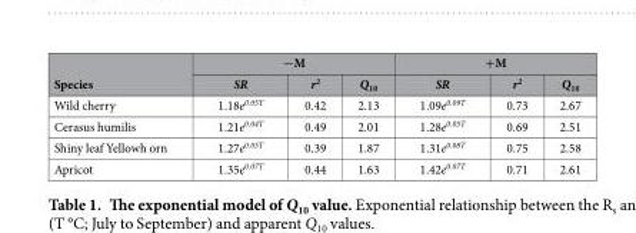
<table><thead><tr><td rowspan="2">Species</td><td colspan="3">−M</td><td colspan="3">+M</td></tr><tr><td>SR</td><td>r<sup>2</sup></td><td>Q<sub>10</sub></td><td>SR</td><td>r<sup>2</sup></td><td>Q<sub>10</sub></td></tr></thead><tbody><tr><td>Wild cherry</td><td>1.18e<sup>0.05T</sup></td><td>0.42</td><td>2.13</td><td>1.09e<sup>0.09T</sup></td><td>0.73</td><td>2.67</td></tr><tr><td>Cerasus humilis</td><td>1.21e<sup>0.04T</sup></td><td>0.49</td><td>2.01</td><td>1.28e<sup>0.05T</sup></td><td>0.69</td><td>2.51</td></tr><tr><td>Shiny leaf Yellowh orn</td><td>1.27e<sup>0.05T</sup></td><td>0.39</td><td>1.87</td><td>1.31e<sup>0.08T</sup></td><td>0.75</td><td>2.58</td></tr><tr><td>Apricot</td><td>1.35e<sup>0.07T</sup></td><td>0.44</td><td>1.63</td><td>1.42e<sup>0.07T</sup></td><td>0.71</td><td>2.61</td></tr></tbody></table>